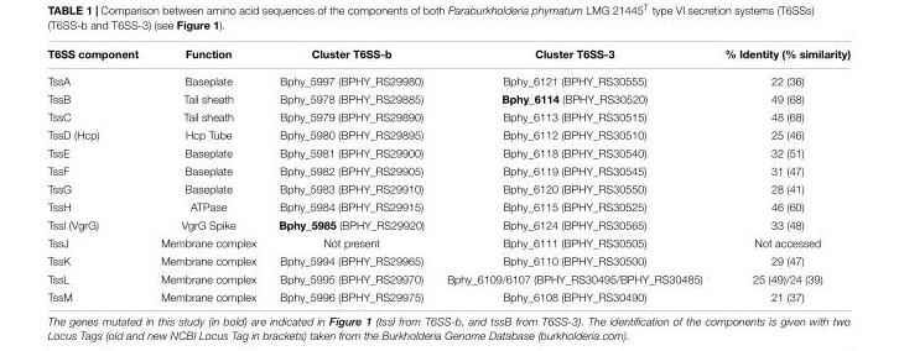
<table><thead><tr><td>T6SS component</td><td>Function</td><td>Cluster T6SS-b</td><td>Cluster T6SS-3</td><td>% Identity (% similarity)</td></tr></thead><tbody><tr><td>TssA</td><td>Baseplate</td><td>Bphy_5997 (BPHY_RS29980)</td><td>Bphy_6121 (BPHY_RS30555)</td><td>22 (36)</td></tr><tr><td>TssB</td><td>Tail sheath</td><td>Bphy_5978 (BPHY_RS29885)</td><td>Bphy_6114 (BPHY_RS30520)</td><td>49 (68)</td></tr><tr><td>TssC</td><td>Tail sheath</td><td>Bphy_5979 (BPHY_RS29890)</td><td>Bphy_6113 (BPHY_RS30515)</td><td>48 (68)</td></tr><tr><td>TssD (Hcp)</td><td>Hcp Tube</td><td>Bphy_5980 (BPHY_RS29895)</td><td>Bphy_6112 (BPHY_RS30510)</td><td>25 (46)</td></tr><tr><td>TssE</td><td>Baseplate</td><td>Bphy_5981 (BPHY_RS29900)</td><td>Bphy_6118 (BPHY_RS30540)</td><td>32 (51)</td></tr><tr><td>TssF</td><td>Baseplate</td><td>Bphy_5982 (BPHY_RS29905)</td><td>Bphy_6119 (BPHY_RS30545)</td><td>31 (47)</td></tr><tr><td>TssG</td><td>Baseplate</td><td>Bphy_5983 (BPHY_RS29910)</td><td>Bphy_6120 (BPHY_RS30550)</td><td>28 (41)</td></tr><tr><td>TssH</td><td>ATPase</td><td>Bphy_5984 (BPHY_RS29915)</td><td>Bphy_6115 (BPHY_RS30525)</td><td>46 (60)</td></tr><tr><td>TssI (VgrG)</td><td>VgrG Spike</td><td>Bphy_5985 (BPHY_RS29920)</td><td>Bphy_6124 (BPHY_RS30565)</td><td>33 (48)</td></tr><tr><td>TssJ</td><td>Membrane complex</td><td>Not present</td><td>Bphy_6111 (BPHY_RS30505)</td><td>Not accessed</td></tr><tr><td>TssK</td><td>Membrane complex</td><td>Bphy_5994 (BPHY_RS29965)</td><td>Bphy_6110 (BPHY_RS30500)</td><td>29 (47)</td></tr><tr><td>TssL</td><td>Membrane complex</td><td>Bphy_5995 (BPHY_RS29970)</td><td>Bphy_6109/6107 (BPHY_RS30495/BPHY_RS30485)</td><td>25 (49)/24 (39)</td></tr><tr><td>TssM</td><td>Membrane complex</td><td>Bphy_5996 (BPHY_RS29975)</td><td>Bphy_6108 (BPHY_RS30490)</td><td>21 (37)</td></tr></tbody></table>